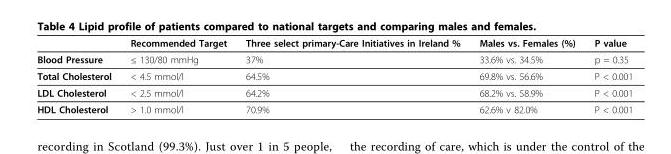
<table><thead><tr><td></td><td>Recommended Target</td><td>Three select primary-Care Initiatives in Ireland %</td><td>Males vs. Females (%)</td><td>P value</td></tr></thead><tbody><tr><td>Blood Pressure</td><td>≤ 130/80 mmHg</td><td>37%</td><td>33.6% vs. 34.5%</td><td>p = 0.35</td></tr><tr><td>Total Cholesterol</td><td>&lt; 4.5 mmol/l</td><td>64.5%</td><td>69.8% vs. 56.6%</td><td>P &lt; 0.001</td></tr><tr><td>LDL Cholesterol</td><td>&lt; 2.5 mmol/l</td><td>64.2%</td><td>68.2% vs. 58.9%</td><td>P &lt; 0.001</td></tr><tr><td>HDL Cholesterol</td><td>&gt; 1.0 mmol/l</td><td>70.9%</td><td>62.6% v 82.0%</td><td>P &lt; 0.001</td></tr></tbody></table>